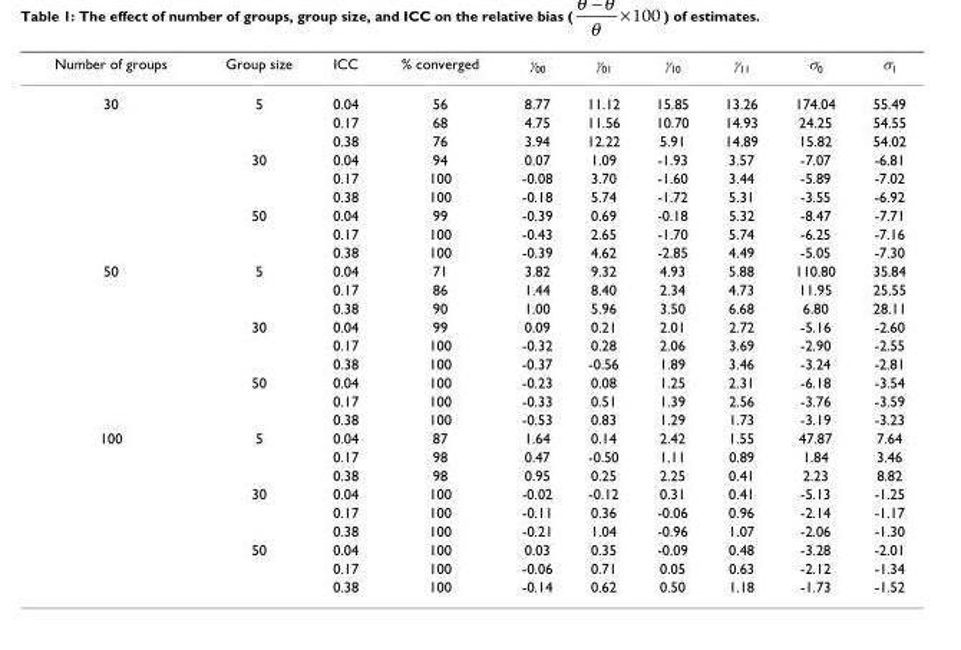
<table><thead><tr><td>Number of groups</td><td>Group size</td><td>ICC</td><td>% converged</td><td>γ<sub>00</sub></td><td>γ<sub>01</sub></td><td>γ<sub>10</sub></td><td>γ<sub>11</sub></td><td>σ<sub>0</sub></td><td>σ<sub>1</sub></td></tr></thead><tbody><tr><td rowspan="9">30</td><td>5</td><td>0.04</td><td>56</td><td>8.77</td><td>11.12</td><td>15.85</td><td>13.26</td><td>174.04</td><td>55.49</td></tr><tr><td></td><td>0.17</td><td>68</td><td>4.75</td><td>11.56</td><td>10.70</td><td>14.93</td><td>24.25</td><td>54.55</td></tr><tr><td></td><td>0.38</td><td>76</td><td>3.94</td><td>12.22</td><td>5.91</td><td>14.89</td><td>15.82</td><td>54.02</td></tr><tr><td>30</td><td>0.04</td><td>94</td><td>0.07</td><td>1.09</td><td>-1.93</td><td>3.57</td><td>-7.07</td><td>-6.81</td></tr><tr><td></td><td>0.17</td><td>100</td><td>-0.08</td><td>3.70</td><td>-1.60</td><td>3.44</td><td>-5.89</td><td>-7.02</td></tr><tr><td></td><td>0.38</td><td>100</td><td>-0.18</td><td>5.74</td><td>-1.72</td><td>5.31</td><td>-3.55</td><td>-6.92</td></tr><tr><td>50</td><td>0.04</td><td>99</td><td>-0.39</td><td>0.69</td><td>-0.18</td><td>5.32</td><td>-8.47</td><td>-7.71</td></tr><tr><td></td><td>0.17</td><td>100</td><td>-0.43</td><td>2.65</td><td>-1.70</td><td>5.74</td><td>-6.25</td><td>-7.16</td></tr><tr><td></td><td>0.38</td><td>100</td><td>-0.39</td><td>4.62</td><td>-2.85</td><td>4.49</td><td>-5.05</td><td>-7.30</td></tr><tr><td rowspan="9">50</td><td>5</td><td>0.04</td><td>71</td><td>3.82</td><td>9.32</td><td>4.93</td><td>5.88</td><td>110.80</td><td>35.84</td></tr><tr><td></td><td>0.17</td><td>86</td><td>1.44</td><td>8.40</td><td>2.34</td><td>4.73</td><td>11.95</td><td>25.55</td></tr><tr><td></td><td>0.38</td><td>90</td><td>1.00</td><td>5.96</td><td>3.50</td><td>6.68</td><td>6.80</td><td>28.11</td></tr><tr><td>30</td><td>0.04</td><td>99</td><td>0.09</td><td>0.21</td><td>2.01</td><td>2.72</td><td>-5.16</td><td>-2.60</td></tr><tr><td></td><td>0.17</td><td>100</td><td>-0.32</td><td>0.28</td><td>2.06</td><td>3.69</td><td>-2.90</td><td>-2.55</td></tr><tr><td></td><td>0.38</td><td>100</td><td>-0.37</td><td>-0.56</td><td>1.89</td><td>3.46</td><td>-3.24</td><td>-2.81</td></tr><tr><td>50</td><td>0.04</td><td>100</td><td>-0.23</td><td>0.08</td><td>1.25</td><td>2.31</td><td>-6.18</td><td>-3.54</td></tr><tr><td></td><td>0.17</td><td>100</td><td>-0.33</td><td>0.51</td><td>1.39</td><td>2.56</td><td>-3.76</td><td>-3.59</td></tr><tr><td></td><td>0.38</td><td>100</td><td>-0.53</td><td>0.83</td><td>1.29</td><td>1.73</td><td>-3.19</td><td>-3.23</td></tr><tr><td rowspan="9">100</td><td>5</td><td>0.04</td><td>87</td><td>1.64</td><td>0.14</td><td>2.42</td><td>1.55</td><td>47.87</td><td>7.64</td></tr><tr><td></td><td>0.17</td><td>98</td><td>0.47</td><td>-0.50</td><td>1.11</td><td>0.89</td><td>1.84</td><td>3.46</td></tr><tr><td></td><td>0.38</td><td>98</td><td>0.95</td><td>0.25</td><td>2.25</td><td>0.41</td><td>2.23</td><td>8.82</td></tr><tr><td>30</td><td>0.04</td><td>100</td><td>-0.02</td><td>-0.12</td><td>0.31</td><td>0.41</td><td>-5.13</td><td>-1.25</td></tr><tr><td></td><td>0.17</td><td>100</td><td>-0.11</td><td>0.36</td><td>-0.06</td><td>0.96</td><td>-2.14</td><td>-1.17</td></tr><tr><td></td><td>0.38</td><td>100</td><td>-0.21</td><td>1.04</td><td>-0.96</td><td>1.07</td><td>-2.06</td><td>-1.30</td></tr><tr><td>50</td><td>0.04</td><td>100</td><td>0.03</td><td>0.35</td><td>-0.09</td><td>0.48</td><td>-3.28</td><td>-2.01</td></tr><tr><td></td><td>0.17</td><td>100</td><td>-0.06</td><td>0.71</td><td>0.05</td><td>0.63</td><td>-2.12</td><td>-1.34</td></tr><tr><td></td><td>0.38</td><td>100</td><td>-0.14</td><td>0.62</td><td>0.50</td><td>1.18</td><td>-1.73</td><td>-1.52</td></tr></tbody></table>